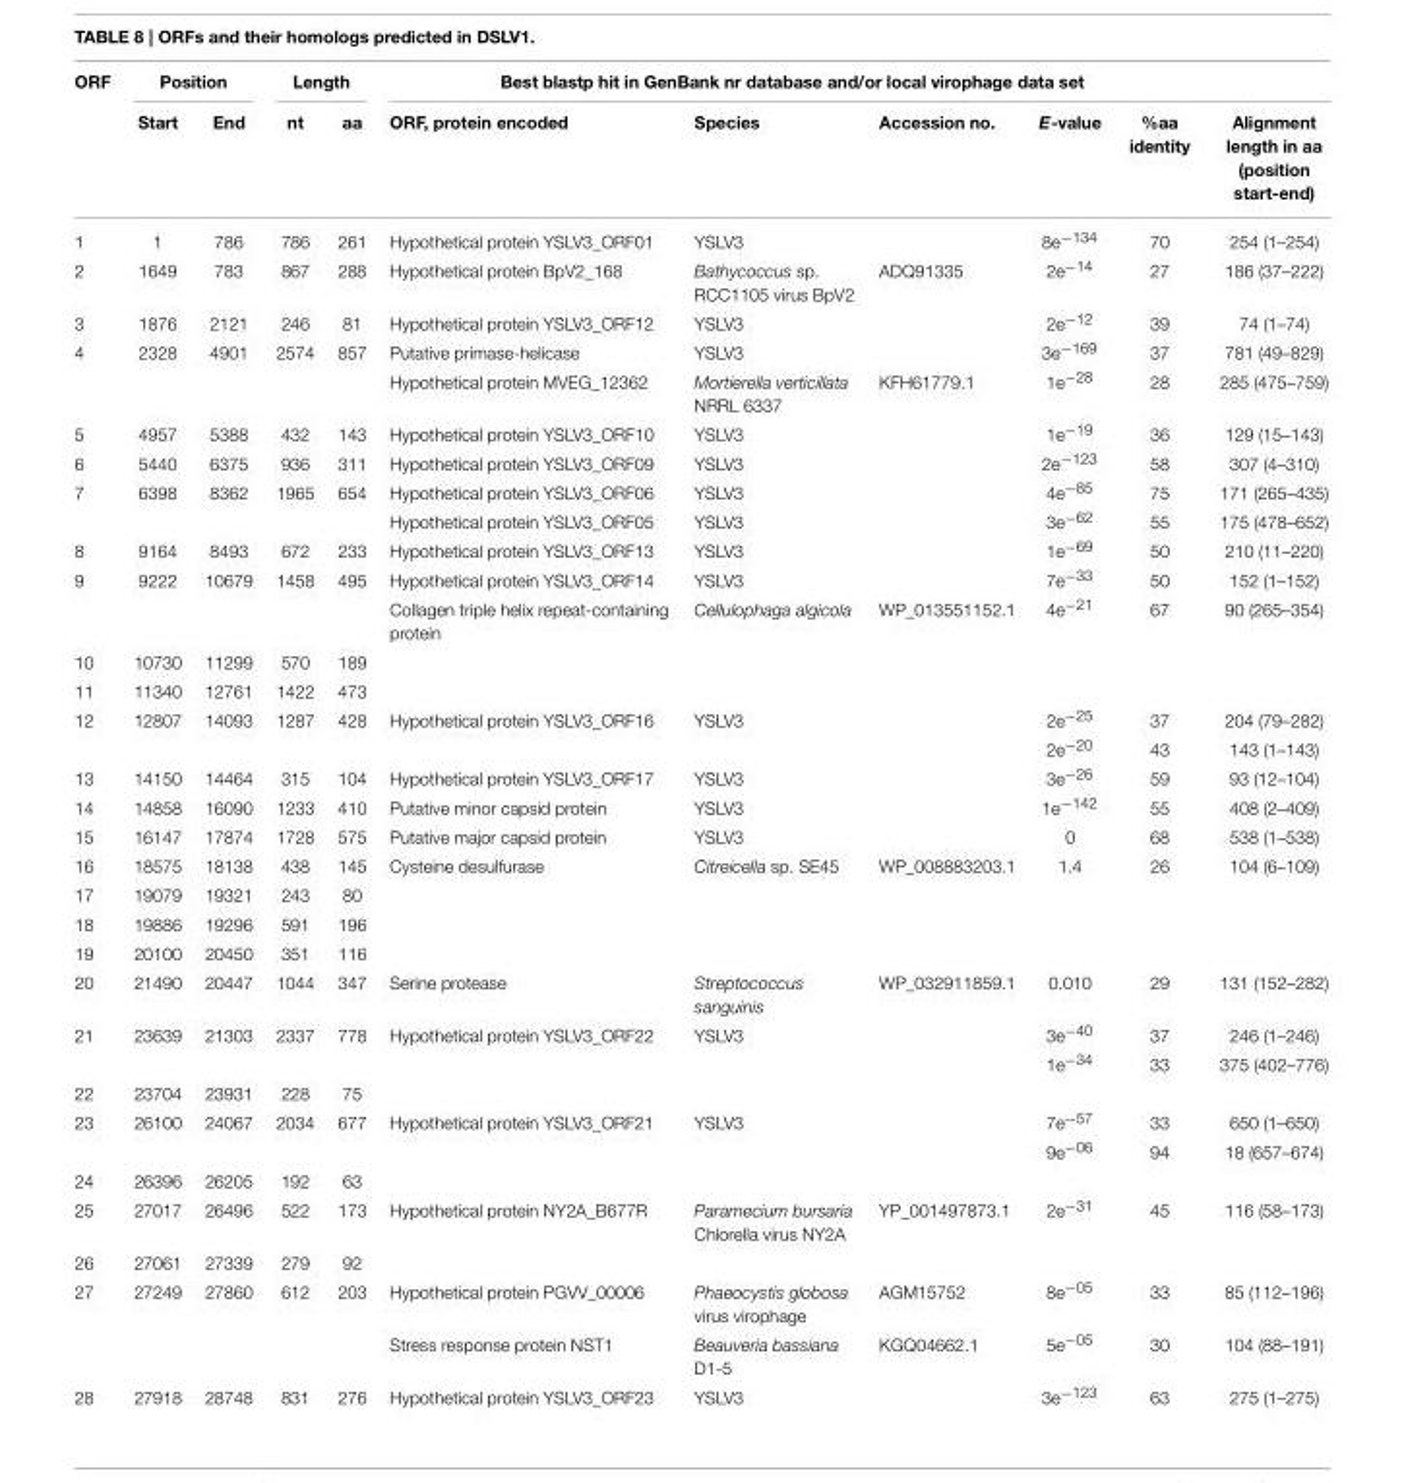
<table><thead><tr><td rowspan="2">ORF</td><td colspan="2">Position</td><td colspan="2">Length</td><td colspan="6">Best blastp hit in GenBank nr database and/or local virophage data set</td></tr><tr><td>Start</td><td>End</td><td>nt</td><td>aa</td><td>ORF, protein encoded</td><td>Species</td><td>Accession no.</td><td>E-value</td><td>%aa identity</td><td>Alignment length in aa (position start-end)</td></tr></thead><tbody><tr><td>1</td><td>1</td><td>786</td><td>786</td><td>261</td><td>Hypothetical protein YSLV3_ORF01</td><td>YSLV3</td><td></td><td>8e<sup>−134</sup></td><td>70</td><td>254 (1–254)</td></tr><tr><td>2</td><td>1649</td><td>783</td><td>867</td><td>288</td><td>Hypothetical protein BpV2_168</td><td>Bathycoccus sp. RCC1105 virus BpV2</td><td>ADQ91335</td><td>2e<sup>−14</sup></td><td>27</td><td>186 (37–222)</td></tr><tr><td>3</td><td>1876</td><td>2121</td><td>246</td><td>81</td><td>Hypothetical protein YSLV3_ORF12</td><td>YSLV3</td><td></td><td>2e<sup>−12</sup></td><td>39</td><td>74 (1–74)</td></tr><tr><td rowspan="2">4</td><td>2328</td><td>4901</td><td>2574</td><td>857</td><td>Putative primase-helicase</td><td>YSLV3</td><td></td><td>3e<sup>−169</sup></td><td>37</td><td>781 (49–829)</td></tr><tr><td></td><td></td><td></td><td></td><td>Hypothetical protein MVEG_12362</td><td>Mortierella verticillata NRRL 6337</td><td>KFH61779.1</td><td>1e<sup>−28</sup></td><td>28</td><td>285 (475–759)</td></tr><tr><td>5</td><td>4957</td><td>5388</td><td>432</td><td>143</td><td>Hypothetical protein YSLV3_ORF10</td><td>YSLV3</td><td></td><td>1e<sup>−19</sup></td><td>36</td><td>129 (15–143)</td></tr><tr><td>6</td><td>5440</td><td>6375</td><td>936</td><td>311</td><td>Hypothetical protein YSLV3_ORF09</td><td>YSLV3</td><td></td><td>2e<sup>−123</sup></td><td>58</td><td>307 (4–310)</td></tr><tr><td rowspan="2">7</td><td>6398</td><td>8362</td><td>1965</td><td>654</td><td>Hypothetical protein YSLV3_ORF06</td><td>YSLV3</td><td></td><td>4e<sup>−85</sup></td><td>75</td><td>171 (265–435)</td></tr><tr><td></td><td></td><td></td><td></td><td>Hypothetical protein YSLV3_ORF05</td><td>YSLV3</td><td></td><td>3e<sup>−62</sup></td><td>55</td><td>175 (478–652)</td></tr><tr><td>8</td><td>9164</td><td>8493</td><td>672</td><td>233</td><td>Hypothetical protein YSLV3_ORF13</td><td>YSLV3</td><td></td><td>1e<sup>−69</sup></td><td>50</td><td>210 (11–220)</td></tr><tr><td rowspan="2">9</td><td>9222</td><td>10679</td><td>1458</td><td>495</td><td>Hypothetical protein YSLV3_ORF14</td><td>YSLV3</td><td></td><td>7e<sup>−33</sup></td><td>50</td><td>152 (1–152)</td></tr><tr><td></td><td></td><td></td><td></td><td>Collagen triple helix repeat-containing protein</td><td>Cellulophaga algicola</td><td>WP_013551152.1</td><td>4e<sup>−21</sup></td><td>67</td><td>90 (265–354)</td></tr><tr><td>10</td><td>10730</td><td>11299</td><td>570</td><td>189</td><td></td><td></td><td></td><td></td><td></td><td></td></tr><tr><td>11</td><td>11340</td><td>12761</td><td>1422</td><td>473</td><td></td><td></td><td></td><td></td><td></td><td></td></tr><tr><td rowspan="2">12</td><td>12807</td><td>14093</td><td>1287</td><td>428</td><td>Hypothetical protein YSLV3_ORF16</td><td>YSLV3</td><td></td><td>2e<sup>−25</sup></td><td>37</td><td>204 (79–282)</td></tr><tr><td></td><td></td><td></td><td></td><td></td><td></td><td></td><td>2e<sup>−20</sup></td><td>43</td><td>143 (1–143)</td></tr><tr><td>13</td><td>14150</td><td>14464</td><td>315</td><td>104</td><td>Hypothetical protein YSLV3_ORF17</td><td>YSLV3</td><td></td><td>3e<sup>−26</sup></td><td>59</td><td>93 (12–104)</td></tr><tr><td>14</td><td>14858</td><td>16090</td><td>1233</td><td>410</td><td>Putative minor capsid protein</td><td>YSLV3</td><td></td><td>1e<sup>−142</sup></td><td>55</td><td>408 (2–409)</td></tr><tr><td>15</td><td>16147</td><td>17874</td><td>1728</td><td>575</td><td>Putative major capsid protein</td><td>YSLV3</td><td></td><td>0</td><td>68</td><td>538 (1–538)</td></tr><tr><td>16</td><td>18575</td><td>18138</td><td>438</td><td>145</td><td>Cysteine desulfurase</td><td>Citreicella sp. SE45</td><td>WP_008883203.1</td><td>1.4</td><td>26</td><td>104 (6–109)</td></tr><tr><td>17</td><td>19079</td><td>19321</td><td>243</td><td>80</td><td></td><td></td><td></td><td></td><td></td><td></td></tr><tr><td>18</td><td>19886</td><td>19296</td><td>591</td><td>196</td><td></td><td></td><td></td><td></td><td></td><td></td></tr><tr><td>19</td><td>20100</td><td>20450</td><td>351</td><td>116</td><td></td><td></td><td></td><td></td><td></td><td></td></tr><tr><td>20</td><td>21490</td><td>20447</td><td>1044</td><td>347</td><td>Serine protease</td><td>Streptococcus sanguinis</td><td>WP_032911859.1</td><td>0.010</td><td>29</td><td>131 (152–282)</td></tr><tr><td rowspan="2">21</td><td>23639</td><td>21303</td><td>2337</td><td>778</td><td>Hypothetical protein YSLV3_ORF22</td><td>YSLV3</td><td></td><td>3e<sup>−40</sup></td><td>37</td><td>246 (1–246)</td></tr><tr><td></td><td></td><td></td><td></td><td></td><td></td><td></td><td>1e<sup>−34</sup></td><td>33</td><td>375 (402–776)</td></tr><tr><td>22</td><td>23704</td><td>23931</td><td>228</td><td>75</td><td></td><td></td><td></td><td></td><td></td><td></td></tr><tr><td rowspan="2">23</td><td>26100</td><td>24067</td><td>2034</td><td>677</td><td>Hypothetical protein YSLV3_ORF21</td><td>YSLV3</td><td></td><td>7e<sup>−57</sup></td><td>33</td><td>650 (1–650)</td></tr><tr><td></td><td></td><td></td><td></td><td></td><td></td><td></td><td>9e<sup>−06</sup></td><td>94</td><td>18 (657–674)</td></tr><tr><td>24</td><td>26396</td><td>26205</td><td>192</td><td>63</td><td></td><td></td><td></td><td></td><td></td><td></td></tr><tr><td>25</td><td>27017</td><td>26496</td><td>522</td><td>173</td><td>Hypothetical protein NY2A_B677R</td><td>Paramecium bursaria Chlorella virus NY2A</td><td>YP_001497873.1</td><td>2e<sup>−31</sup></td><td>45</td><td>116 (58–173)</td></tr><tr><td>26</td><td>27061</td><td>27339</td><td>279</td><td>92</td><td></td><td></td><td></td><td></td><td></td><td></td></tr><tr><td rowspan="2">27</td><td>27249</td><td>27860</td><td>612</td><td>203</td><td>Hypothetical protein PGVV_00006</td><td>Phaeocystis globosa virus virophage</td><td>AGM15752</td><td>8e<sup>−05</sup></td><td>33</td><td>85 (112–196)</td></tr><tr><td></td><td></td><td></td><td></td><td>Stress response protein NST1</td><td>Beauveria bassiana D1-5</td><td>KGQ04662.1</td><td>5e<sup>−05</sup></td><td>30</td><td>104 (88–191)</td></tr><tr><td>28</td><td>27918</td><td>28748</td><td>831</td><td>276</td><td>Hypothetical protein YSLV3_ORF23</td><td>YSLV3</td><td></td><td>3e<sup>−123</sup></td><td>63</td><td>275 (1–275)</td></tr></tbody></table>